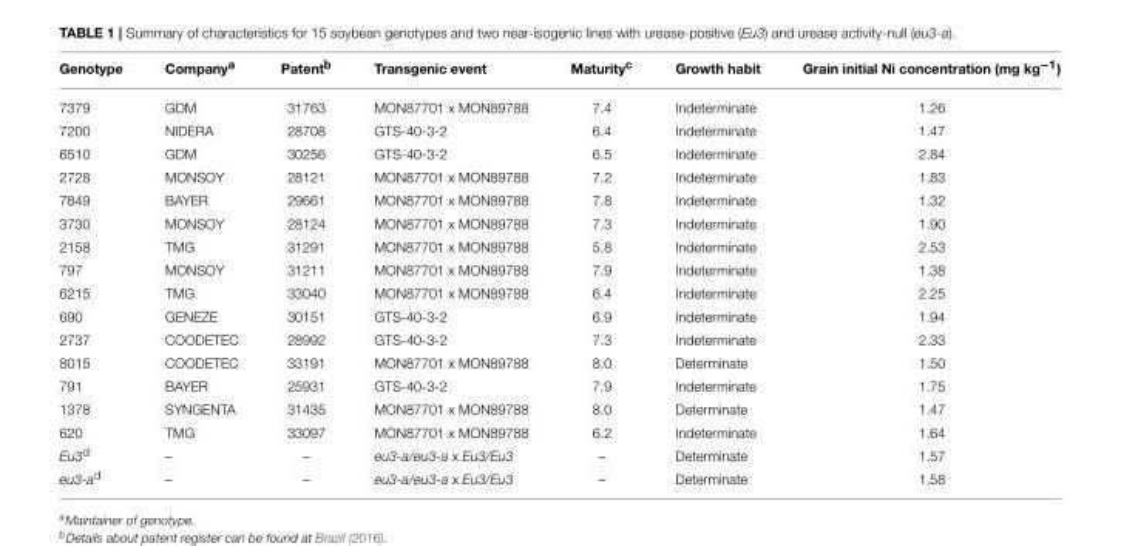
<table><thead><tr><td>Genotype</td><td>Company<sup>a</sup></td><td>Patent<sup>b</sup></td><td>Transgenic event</td><td>Maturity<sup>c</sup></td><td>Growth habit</td><td>Grain initial Ni concentration (mg kg<sup>−1</sup>)</td></tr></thead><tbody><tr><td>7379</td><td>GDM</td><td>31763</td><td>MON87701 x MON89788</td><td>7.4</td><td>Indeterminate</td><td>1.26</td></tr><tr><td>7200</td><td>NIDERA</td><td>28708</td><td>GTS-40-3-2</td><td>6.4</td><td>Indeterminate</td><td>1.47</td></tr><tr><td>6510</td><td>GDM</td><td>30256</td><td>GTS-40-3-2</td><td>6.5</td><td>Indeterminate</td><td>2.84</td></tr><tr><td>2728</td><td>MONSOY</td><td>28121</td><td>MON87701 x MON89788</td><td>7.2</td><td>Indeterminate</td><td>1.83</td></tr><tr><td>7849</td><td>BAYER</td><td>29661</td><td>MON87701 x MON89788</td><td>7.8</td><td>Indeterminate</td><td>1.32</td></tr><tr><td>3730</td><td>MONSOY</td><td>28124</td><td>MON87701 x MON89788</td><td>7.3</td><td>Indeterminate</td><td>1.90</td></tr><tr><td>2158</td><td>TMG</td><td>31291</td><td>MON87701 x MON89788</td><td>5.8</td><td>Indeterminate</td><td>2.53</td></tr><tr><td>797</td><td>MONSOY</td><td>31211</td><td>MON87701 x MON89788</td><td>7.9</td><td>Indeterminate</td><td>1.38</td></tr><tr><td>6215</td><td>TMG</td><td>33040</td><td>MON87701 x MON89788</td><td>6.4</td><td>Indeterminate</td><td>2.25</td></tr><tr><td>690</td><td>GENEZE</td><td>30151</td><td>GTS-40-3-2</td><td>6.9</td><td>Indeterminate</td><td>1.94</td></tr><tr><td>2737</td><td>COODETEC</td><td>28992</td><td>GTS-40-3-2</td><td>7.3</td><td>Indeterminate</td><td>2.33</td></tr><tr><td>8015</td><td>COODETEC</td><td>33191</td><td>MON87701 x MON89788</td><td>8.0</td><td>Determinate</td><td>1.50</td></tr><tr><td>791</td><td>BAYER</td><td>25931</td><td>GTS-40-3-2</td><td>7.9</td><td>Indeterminate</td><td>1.75</td></tr><tr><td>1378</td><td>SYNGENTA</td><td>31435</td><td>MON87701 x MON89788</td><td>8.0</td><td>Determinate</td><td>1.47</td></tr><tr><td>620</td><td>TMG</td><td>33097</td><td>MON87701 x MON89788</td><td>6.2</td><td>Indeterminate</td><td>1.64</td></tr><tr><td>Eu3<sup>d</sup></td><td>–</td><td>–</td><td>eu3-a/eu3-a x Eu3/Eu3</td><td>–</td><td>Determinate</td><td>1.57</td></tr><tr><td>eu3-a<sup>d</sup></td><td>–</td><td>–</td><td>eu3-a/eu3-a x Eu3/Eu3</td><td>–</td><td>Determinate</td><td>1.58</td></tr></tbody></table>